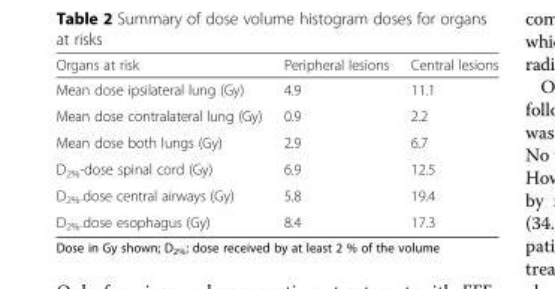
<table><thead><tr><td>Organs at risk</td><td>Peripheral lesions</td><td>Central lesions</td></tr></thead><tbody><tr><td>Mean dose ipsilateral lung (Gy)</td><td>4.9</td><td>11.1</td></tr><tr><td>Mean dose contralateral lung (Gy)</td><td>0.9</td><td>2.2</td></tr><tr><td>Mean dose both lungs (Gy)</td><td>2.9</td><td>6.7</td></tr><tr><td>D<sub>2%</sub>-dose spinal cord (Gy)</td><td>6.9</td><td>12.5</td></tr><tr><td>D<sub>2%-</sub>dose central airways (Gy)</td><td>5.8</td><td>19.4</td></tr><tr><td>D<sub>2%-</sub>dose esophagus (Gy)</td><td>8.4</td><td>17.3</td></tr></tbody></table>